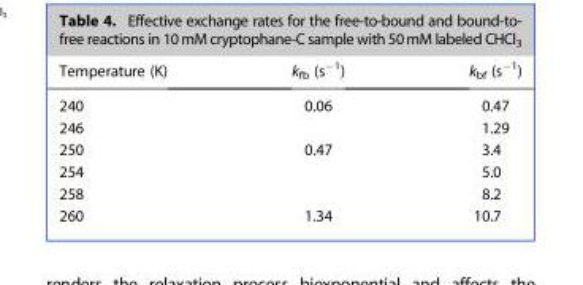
<table><thead><tr><td>Temperature (K)</td><td>k<sub>fb</sub> (s<sup>−1</sup>)</td><td>k<sub>bf</sub> (s<sup>−1</sup>)</td></tr></thead><tbody><tr><td>240</td><td>0.06</td><td>0.47</td></tr><tr><td>246</td><td></td><td>1.29</td></tr><tr><td>250</td><td>0.47</td><td>3.4</td></tr><tr><td>254</td><td></td><td>5.0</td></tr><tr><td>258</td><td></td><td>8.2</td></tr><tr><td>260</td><td>1.34</td><td>10.7</td></tr></tbody></table>